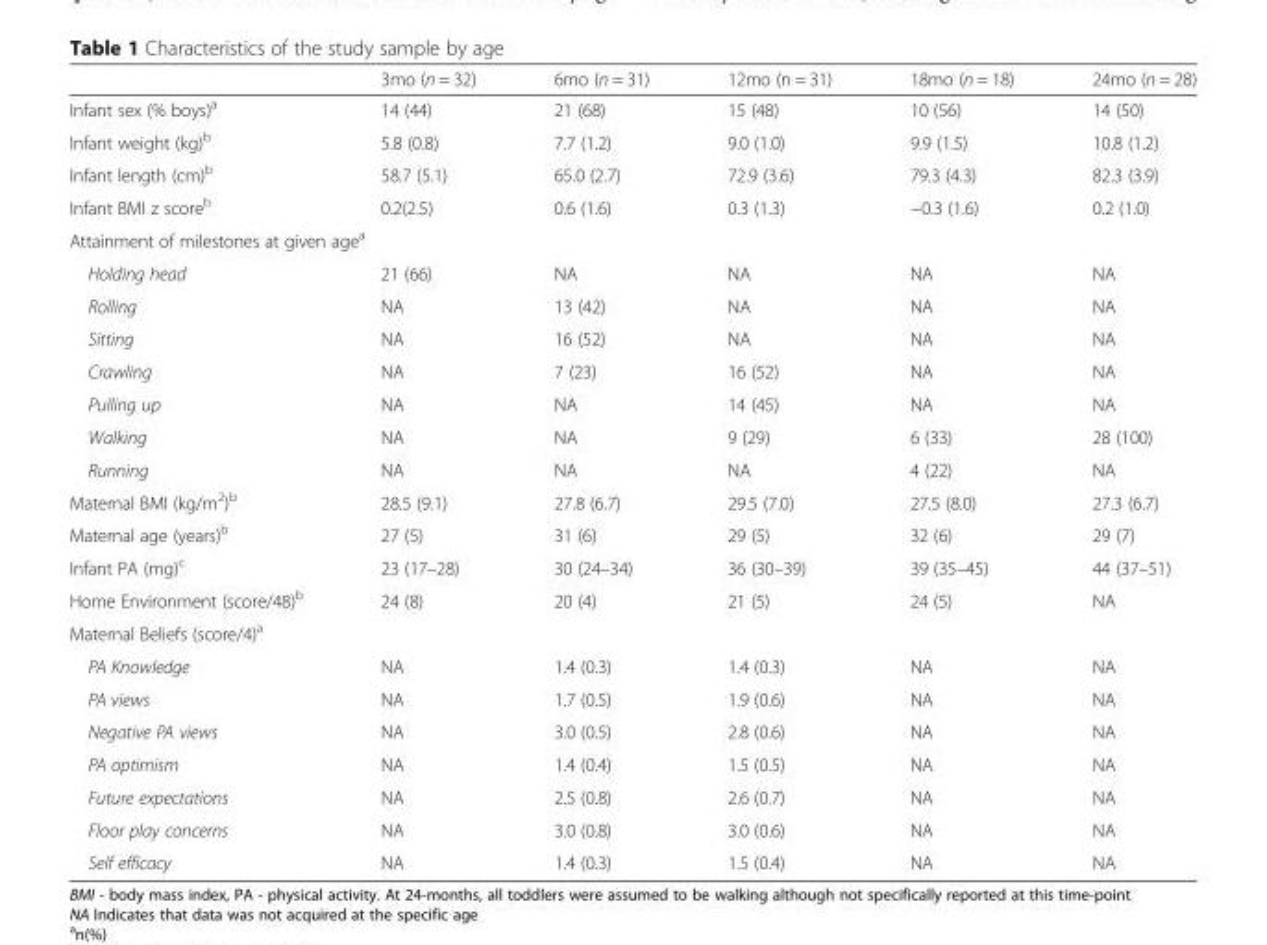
<table><thead><tr><td></td><td>3mo (n = 32)</td><td>6mo (n = 31)</td><td>12mo (n = 31)</td><td>18mo (n = 18)</td><td>24mo (n = 28)</td></tr></thead><tbody><tr><td>Infant sex (% boys)<sup>a</sup></td><td>14 (44)</td><td>21 (68)</td><td>15 (48)</td><td>10 (56)</td><td>14 (50)</td></tr><tr><td>Infant weight (kg)<sup>b</sup></td><td>5.8 (0.8)</td><td>7.7 (1.2)</td><td>9.0 (1.0)</td><td>9.9 (1.5)</td><td>10.8 (1.2)</td></tr><tr><td>Infant length (cm)<sup>b</sup></td><td>58.7 (5.1)</td><td>65.0 (2.7)</td><td>72.9 (3.6)</td><td>79.3 (4.3)</td><td>82.3 (3.9)</td></tr><tr><td>Infant BMI z score<sup>b</sup></td><td>0.2(2.5)</td><td>0.6 (1.6)</td><td>0.3 (1.3)</td><td>−0.3 (1.6)</td><td>0.2 (1.0)</td></tr><tr><td colspan="6">Attainment of milestones at given age<sup>a</sup></td></tr><tr><td>Holding head</td><td>21 (66)</td><td>NA</td><td>NA</td><td>NA</td><td>NA</td></tr><tr><td>Rolling</td><td>NA</td><td>13 (42)</td><td>NA</td><td>NA</td><td>NA</td></tr><tr><td>Sitting</td><td>NA</td><td>16 (52)</td><td>NA</td><td>NA</td><td>NA</td></tr><tr><td>Crawling</td><td>NA</td><td>7 (23)</td><td>16 (52)</td><td>NA</td><td>NA</td></tr><tr><td>Pulling up</td><td>NA</td><td>NA</td><td>14 (45)</td><td>NA</td><td>NA</td></tr><tr><td>Walking</td><td>NA</td><td>NA</td><td>9 (29)</td><td>6 (33)</td><td>28 (100)</td></tr><tr><td>Running</td><td>NA</td><td>NA</td><td>NA</td><td>4 (22)</td><td>NA</td></tr><tr><td>Maternal BMI (kg/m<sup>2</sup>)<sup>b</sup></td><td>28.5 (9.1)</td><td>27.8 (6.7)</td><td>29.5 (7.0)</td><td>27.5 (8.0)</td><td>27.3 (6.7)</td></tr><tr><td>Maternal age (years)<sup>b</sup></td><td>27 (5)</td><td>31 (6)</td><td>29 (5)</td><td>32 (6)</td><td>29 (7)</td></tr><tr><td>Infant PA (mg)<sup>c</sup></td><td>23 (17–28)</td><td>30 (24–34)</td><td>36 (30–39)</td><td>39 (35–45)</td><td>44 (37–51)</td></tr><tr><td>Home Environment (score/48)<sup>b</sup></td><td>24 (8)</td><td>20 (4)</td><td>21 (5)</td><td>24 (5)</td><td>NA</td></tr><tr><td colspan="6">Maternal Beliefs (score/4)<sup>a</sup></td></tr><tr><td>PA Knowledge</td><td>NA</td><td>1.4 (0.3)</td><td>1.4 (0.3)</td><td>NA</td><td>NA</td></tr><tr><td>PA views</td><td>NA</td><td>1.7 (0.5)</td><td>1.9 (0.6)</td><td>NA</td><td>NA</td></tr><tr><td>Negative PA views</td><td>NA</td><td>3.0 (0.5)</td><td>2.8 (0.6)</td><td>NA</td><td>NA</td></tr><tr><td>PA optimism</td><td>NA</td><td>1.4 (0.4)</td><td>1.5 (0.5)</td><td>NA</td><td>NA</td></tr><tr><td>Future expectations</td><td>NA</td><td>2.5 (0.8)</td><td>2.6 (0.7)</td><td>NA</td><td>NA</td></tr><tr><td>Floor play concerns</td><td>NA</td><td>3.0 (0.8)</td><td>3.0 (0.6)</td><td>NA</td><td>NA</td></tr><tr><td>Self efficacy</td><td>NA</td><td>1.4 (0.3)</td><td>1.5 (0.4)</td><td>NA</td><td>NA</td></tr></tbody></table>